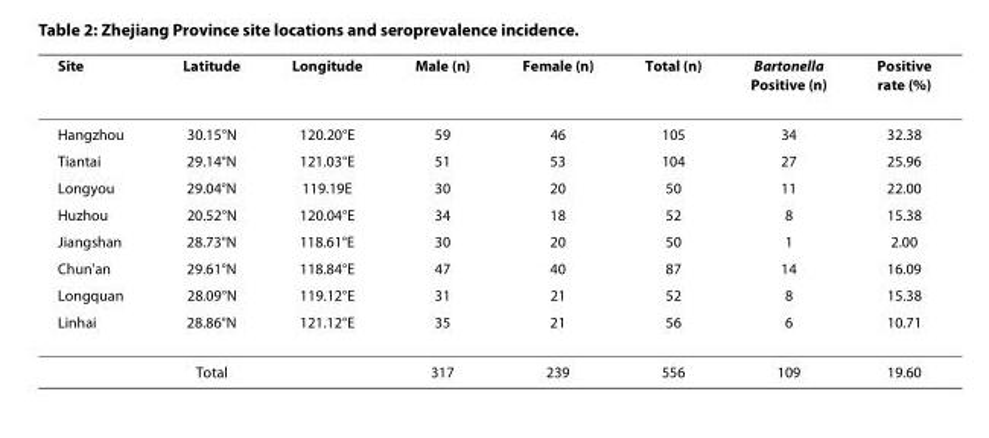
<table><thead><tr><td>Site</td><td>Latitude</td><td>Longitude</td><td>Male (n)</td><td>Female (n)</td><td>Total (n)</td><td>Bartonella Positive (n)</td><td>Positive rate (%)</td></tr></thead><tbody><tr><td>Hangzhou</td><td>30.15°N</td><td>120.20°E</td><td>59</td><td>46</td><td>105</td><td>34</td><td>32.38</td></tr><tr><td>Tiantai</td><td>29.14°N</td><td>121.03°E</td><td>51</td><td>53</td><td>104</td><td>27</td><td>25.96</td></tr><tr><td>Longyou</td><td>29.04°N</td><td>119.19E</td><td>30</td><td>20</td><td>50</td><td>11</td><td>22.00</td></tr><tr><td>Huzhou</td><td>20.52°N</td><td>120.04°E</td><td>34</td><td>18</td><td>52</td><td>8</td><td>15.38</td></tr><tr><td>Jiangshan</td><td>28.73°N</td><td>118.61°E</td><td>30</td><td>20</td><td>50</td><td>1</td><td>2.00</td></tr><tr><td>Chun&#x27;an</td><td>29.61°N</td><td>118.84°E</td><td>47</td><td>40</td><td>87</td><td>14</td><td>16.09</td></tr><tr><td>Longquan</td><td>28.09°N</td><td>119.12°E</td><td>31</td><td>21</td><td>52</td><td>8</td><td>15.38</td></tr><tr><td>Linhai</td><td>28.86°N</td><td>121.12°E</td><td>35</td><td>21</td><td>56</td><td>6</td><td>10.71</td></tr><tr><td colspan="3">Total</td><td>317</td><td>239</td><td>556</td><td>109</td><td>19.60</td></tr></tbody></table>